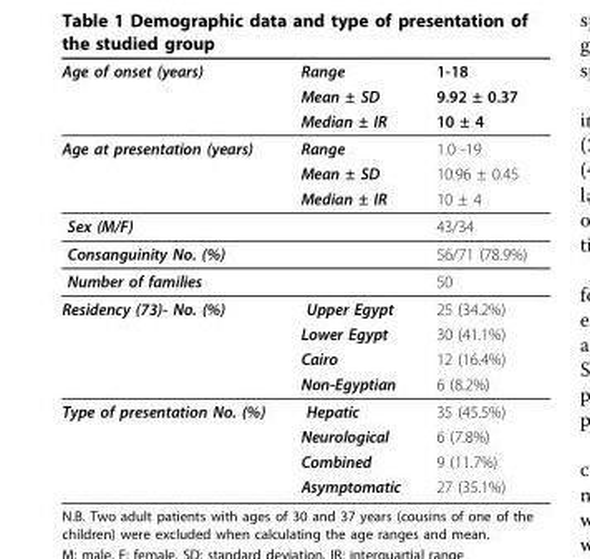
<table><thead><tr><td rowspan="3">Age of onset (years)</td><td rowspan="3">Range Mean ± SD Median ± IR</td><td rowspan="3">1-18 9.92 ± 0.37 10 ± 4</td></tr><tr></tr><tr></tr></thead><tbody><tr><td rowspan="3">Age at presentation (years)</td><td>Range</td><td>1.0 -19</td></tr><tr><td>Mean ± SD</td><td>10.96 ± 0.45</td></tr><tr><td>Median ± IR</td><td>10 ± 4</td></tr><tr><td>Sex (M/F)</td><td></td><td>43/34</td></tr><tr><td>Consanguinity No. (%)</td><td></td><td>56/71 (78.9%)</td></tr><tr><td>Number of families</td><td></td><td>50</td></tr><tr><td rowspan="4">Residency (73)- No. (%)</td><td>Upper Egypt</td><td>25 (34.2%)</td></tr><tr><td>Lower Egypt</td><td>30 (41.1%)</td></tr><tr><td>Cairo</td><td>12 (16.4%)</td></tr><tr><td>Non-Egyptian</td><td>6 (8.2%)</td></tr><tr><td rowspan="4">Type of presentation No. (%)</td><td>Hepatic</td><td>35 (45.5%)</td></tr><tr><td>Neurological</td><td>6 (7.8%)</td></tr><tr><td>Combined</td><td>9 (11.7%)</td></tr><tr><td>Asymptomatic</td><td>27 (35.1%)</td></tr></tbody></table>